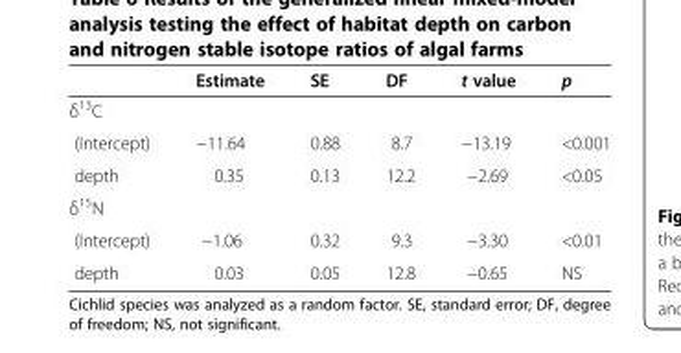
<table><thead><tr><td></td><td>Estimate</td><td>SE</td><td>DF</td><td>t value</td><td>p</td></tr></thead><tbody><tr><td colspan="6">δ<sup>13</sup>C</td></tr><tr><td>(Intercept)</td><td>−11.64</td><td>0.88</td><td>8.7</td><td>−13.19</td><td>&lt;0.001</td></tr><tr><td>depth</td><td>0.35</td><td>0.13</td><td>12.2</td><td>−2.69</td><td>&lt;0.05</td></tr><tr><td colspan="6">δ<sup>15</sup>N</td></tr><tr><td>(Intercept)</td><td>−1.06</td><td>0.32</td><td>9.3</td><td>−3.30</td><td>&lt;0.01</td></tr><tr><td>depth</td><td>0.03</td><td>0.05</td><td>12.8</td><td>−0.65</td><td>NS</td></tr></tbody></table>